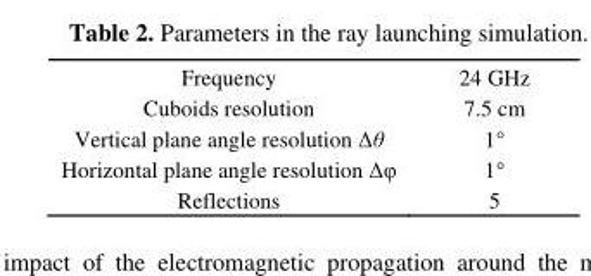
<table><tbody><tr><td>Frequency</td><td>24 GHz</td></tr><tr><td>Cuboids resolution</td><td>7.5 cm</td></tr><tr><td>Vertical plane angle resolution Δθ</td><td>1°</td></tr><tr><td>Horizontal plane angle resolution Δφ</td><td>1°</td></tr><tr><td>Reflections</td><td>5</td></tr></tbody></table>